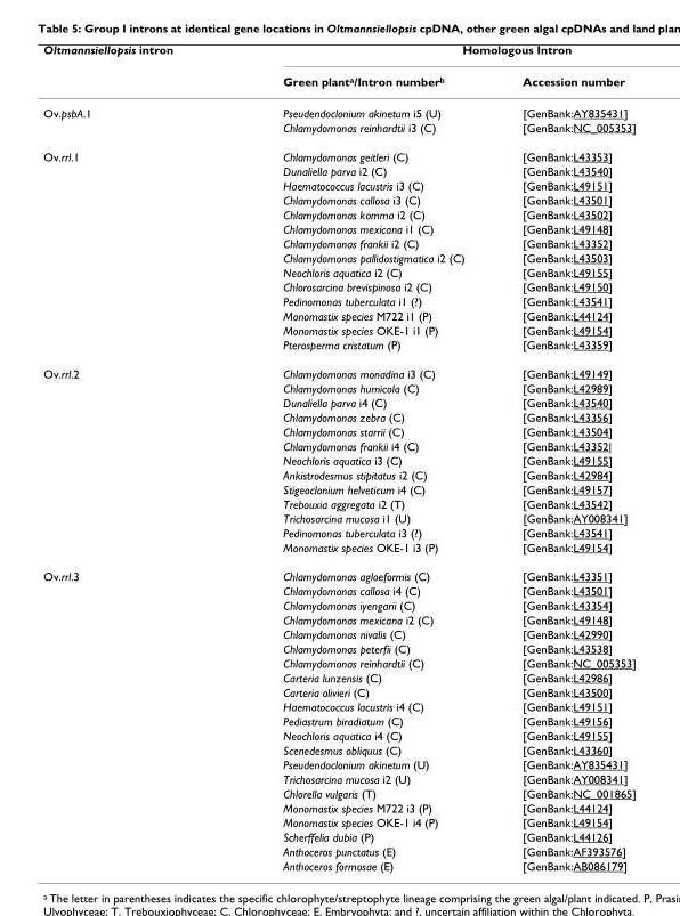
<table><thead><tr><td rowspan="2">Oltmannsiellopsis intron</td><td colspan="2">Homologous Intron</td></tr><tr><td>Green planta/Intron numberb</td><td>Accession number</td></tr></thead><tbody><tr><td rowspan="2">Ov.psbA.1</td><td>Pseudendoclonium akinetum i5 (U)</td><td>[GenBank:AY835431]</td></tr><tr><td>Chlamydomonas reinhardtii i3 (C)</td><td>[GenBank:NC_005353]</td></tr><tr><td rowspan="14">Ov.rrl.1</td><td>Chlamydomonas geitleri (C)</td><td>[GenBank:L43353]</td></tr><tr><td>Dunaliella parva i2 (C)</td><td>[GenBank:L43540]</td></tr><tr><td>Haematococcus lacustris i3 (C)</td><td>[GenBank:L49151]</td></tr><tr><td>Chlamydomonas callosa i3 (C)</td><td>[GenBank:L43501]</td></tr><tr><td>Chlamydomonas komma i2 (C)</td><td>[GenBank:L43502]</td></tr><tr><td>Chlamydomonas mexicana i1 (C)</td><td>[GenBank:L49148]</td></tr><tr><td>Chlamydomonas frankii i2 (C)</td><td>[GenBank:L43352]</td></tr><tr><td>Chlamydomonas pallidostigmatica i2 (C)</td><td>[GenBank:L43503]</td></tr><tr><td>Neochloris aquatica i2 (C)</td><td>[GenBank:L49155]</td></tr><tr><td>Chlorosarcina brevispinosa i2 (C)</td><td>[GenBank:L49150]</td></tr><tr><td>Pedinomonas tuberculata i1 (?)</td><td>[GenBank:L43541]</td></tr><tr><td>Monomastix species M722 i1 (P)</td><td>[GenBank:L44124]</td></tr><tr><td>Monomastix species OKE-1 i1 (P)</td><td>[GenBank:L49154]</td></tr><tr><td>Pterosperma cristatum (P)</td><td>[GenBank:L43359]</td></tr><tr><td rowspan="13">Ov.rrl.2</td><td>Chlamydomonas monadina i3 (C)</td><td>[GenBank:L49149]</td></tr><tr><td>Chlamydomonas humicola (C)</td><td>[GenBank:L42989]</td></tr><tr><td>Dunaliella parva i4 (C)</td><td>[GenBank:L43540]</td></tr><tr><td>Chlamydomonas zebra (C)</td><td>[GenBank:L43356]</td></tr><tr><td>Chlamydomonas starrii (C)</td><td>[GenBank:L43504]</td></tr><tr><td>Chlamydomonas frankii i4 (C)</td><td>[GenBank:L43352|</td></tr><tr><td>Neochloris aquatica i3 (C)</td><td>[GenBank:L49155]</td></tr><tr><td>Ankistrodesmus stipitatus i2 (C)</td><td>[GenBank:L42984]</td></tr><tr><td>Stigeoclonium helveticum i4 (C)</td><td>[GenBank:L49157]</td></tr><tr><td>Trebouxia aggregata i2 (T)</td><td>[GenBank:L43542]</td></tr><tr><td>Trichosarcina mucosa i1 (U)</td><td>[GenBank:AY008341]</td></tr><tr><td>Pedinomonas tuberculata i3 (?)</td><td>[GenBank:L43541]</td></tr><tr><td>Monomastix species OKE-1 i3 (P)</td><td>[GenBank:L49154]</td></tr><tr><td rowspan="21">Ov.rrl.3</td><td>Chlamydomonas agloeformis (C)</td><td>[GenBank:L43351]</td></tr><tr><td>Chlamydomonas callosa i4 (C)</td><td>[GenBank:L43501]</td></tr><tr><td>Chlamydomonas iyengarii (C)</td><td>[GenBank:L43354]</td></tr><tr><td>Chlamydomonas mexicana i2 (C)</td><td>[GenBank:L49148]</td></tr><tr><td>Chlamydomonas nivalis (C)</td><td>[GenBank:L42990]</td></tr><tr><td>Chlamydomonas peterfii (C)</td><td>[GenBank:L43538]</td></tr><tr><td>Chlamydomonas reinhardtii (C)</td><td>[GenBank:NC_005353]</td></tr><tr><td>Carteria lunzensis (C)</td><td>[GenBank:L42986]</td></tr><tr><td>Carteria olivieri (C)</td><td>[GenBank:L43500]</td></tr><tr><td>Haematococcus lacustris i4 (C)</td><td>[GenBank:L49151]</td></tr><tr><td>Pediastrum biradiatum (C)</td><td>[GenBank:L49156]</td></tr><tr><td>Neochloris aquatica i4 (C)</td><td>[GenBank:L49155]</td></tr><tr><td>Scenedesmus obliquus (C)</td><td>[GenBank:L43360]</td></tr><tr><td>Pseudendoclonium akinetum (U)</td><td>[GenBank:AY835431]</td></tr><tr><td>Trichosarcina mucosa i2 (U)</td><td>[GenBank:AY008341]</td></tr><tr><td>Chlorella vulgaris (T)</td><td>[GenBank:NC_001865]</td></tr><tr><td>Monomastix species M722 i3 (P)</td><td>[GenBank:L44124]</td></tr><tr><td>Monomastix species OKE-1 i4 (P)</td><td>[GenBank:L49154]</td></tr><tr><td>Scherffelia dubia (P)</td><td>[GenBank:L44126]</td></tr><tr><td>Anthoceros punctatus (E)</td><td>[GenBank:AF393576]</td></tr><tr><td>Anthoceros formosae (E)</td><td>[GenBank:AB086179]</td></tr></tbody></table>